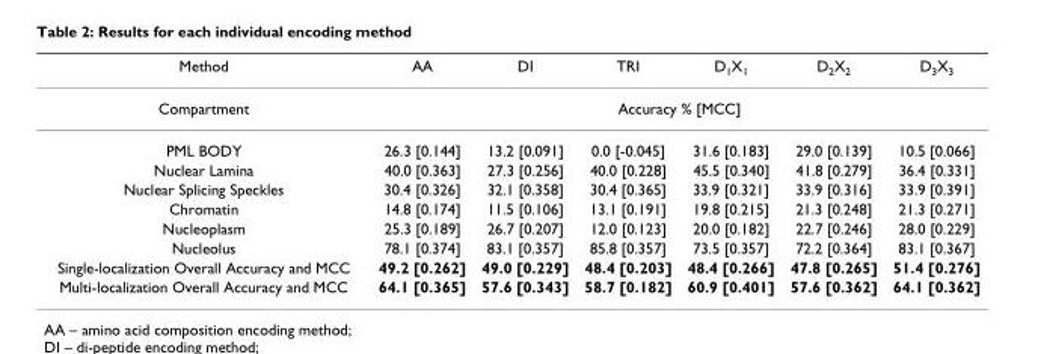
<table><thead><tr><td>Method</td><td>AA</td><td>DI</td><td>TRI</td><td>D<sub>1</sub>X<sub>1</sub></td><td>D<sub>2</sub>X<sub>2</sub></td><td>D<sub>3</sub>X<sub>3</sub></td></tr></thead><tbody><tr><td>Compartment</td><td colspan="6">Accuracy % [MCC]</td></tr><tr><td>PML BODY</td><td>26.3 [0.144]</td><td>13.2 [0.091]</td><td>0.0 [-0.045]</td><td>31.6 [0.183]</td><td>29.0 [0.139]</td><td>10.5 [0.066]</td></tr><tr><td>Nuclear Lamina</td><td>40.0 [0.363]</td><td>27.3 [0.256]</td><td>40.0 [0.228]</td><td>45.5 [0.340]</td><td>41.8 [0.279]</td><td>36.4 [0.331]</td></tr><tr><td>Nuclear Splicing Speckles</td><td>30.4 [0.326]</td><td>32.1 [0.358]</td><td>30.4 [0.365]</td><td>33.9 [0.321]</td><td>33.9 [0.316]</td><td>33.9 [0.391]</td></tr><tr><td>Chromatin</td><td>14.8 [0.174]</td><td>11.5 [0.106]</td><td>13.1 [0.191]</td><td>19.8 [0.215]</td><td>21.3 [0.248]</td><td>21.3 [0.271]</td></tr><tr><td>Nucleoplasm</td><td>25.3 [0.189]</td><td>26.7 [0.207]</td><td>12.0 [0.123]</td><td>20.0 [0.182]</td><td>22.7 [0.246]</td><td>28.0 [0.229]</td></tr><tr><td>Nucleolus</td><td>78.1 [0.374]</td><td>83.1 [0.357]</td><td>85.8 [0.357]</td><td>73.5 [0.357]</td><td>72.2 [0.364]</td><td>83.1 [0.367]</td></tr><tr><td>Single-localization Overall Accuracy and MCC</td><td>49.2 [0.262]</td><td>49.0 [0.229]</td><td>48.4 [0.203]</td><td>48.4 [0.266]</td><td>47.8 [0.265]</td><td>51.4 [0.276]</td></tr><tr><td>Multi-localization Overall Accuracy and MCC</td><td>64.1 [0.365]</td><td>57.6 [0.343]</td><td>58.7 [0.182]</td><td>60.9 [0.401]</td><td>57.6 [0.362]</td><td>64.1 [0.362]</td></tr></tbody></table>